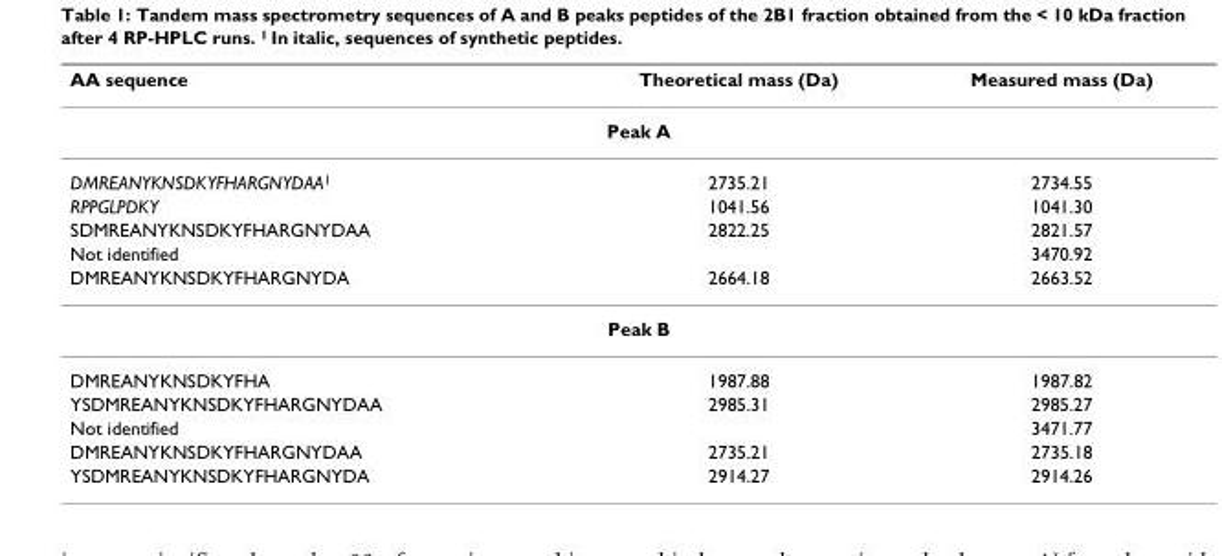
<table><thead><tr><td>AA sequence</td><td>Theoretical mass (Da)</td><td>Measured mass (Da)</td></tr></thead><tbody><tr><td colspan="3">Peak A</td></tr><tr><td>DMREANYKNSDKYFHARGNYDAA<sup>1</sup></td><td>2735.21</td><td>2734.55</td></tr><tr><td>RPPGLPDKY</td><td>1041.56</td><td>1041.30</td></tr><tr><td>SDMREANYKNSDKYFHARGNYDAA</td><td>2822.25</td><td>2821.57</td></tr><tr><td>Not identified</td><td></td><td>3470.92</td></tr><tr><td>DMREANYKNSDKYFHARGNYDA</td><td>2664.18</td><td>2663.52</td></tr><tr><td colspan="3">Peak B</td></tr><tr><td>DMREANYKNSDKYFHA</td><td>1987.88</td><td>1987.82</td></tr><tr><td>YSDMREANYKNSDKYFHARGNYDAA</td><td>2985.31</td><td>2985.27</td></tr><tr><td>Not identified</td><td></td><td>3471.77</td></tr><tr><td>DMREANYKNSDKYFHARGNYDAA</td><td>2735.21</td><td>2735.18</td></tr><tr><td>YSDMREANYKNSDKYFHARGNYDA</td><td>2914.27</td><td>2914.26</td></tr></tbody></table>